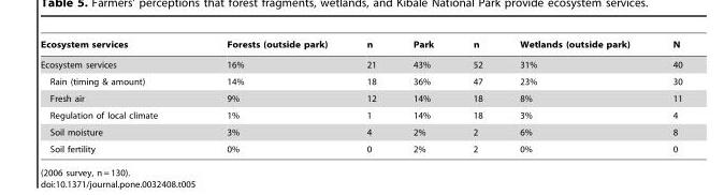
<table><thead><tr><td>Ecosystem services</td><td>Forests (outside park)</td><td>n</td><td>Park</td><td>n</td><td>Wetlands (outside park)</td><td>N</td></tr></thead><tbody><tr><td>Ecosystem services</td><td>16%</td><td>21</td><td>43%</td><td>52</td><td>31%</td><td>40</td></tr><tr><td>Rain (timing &amp; amount)</td><td>14%</td><td>18</td><td>36%</td><td>47</td><td>23%</td><td>30</td></tr><tr><td>Fresh air</td><td>9%</td><td>12</td><td>14%</td><td>18</td><td>8%</td><td>11</td></tr><tr><td>Regulation of local climate</td><td>1%</td><td>1</td><td>14%</td><td>18</td><td>3%</td><td>4</td></tr><tr><td>Soil moisture</td><td>3%</td><td>4</td><td>2%</td><td>2</td><td>6%</td><td>8</td></tr><tr><td>Soil fertility</td><td>0%</td><td>0</td><td>2%</td><td>2</td><td>0%</td><td>0</td></tr></tbody></table>